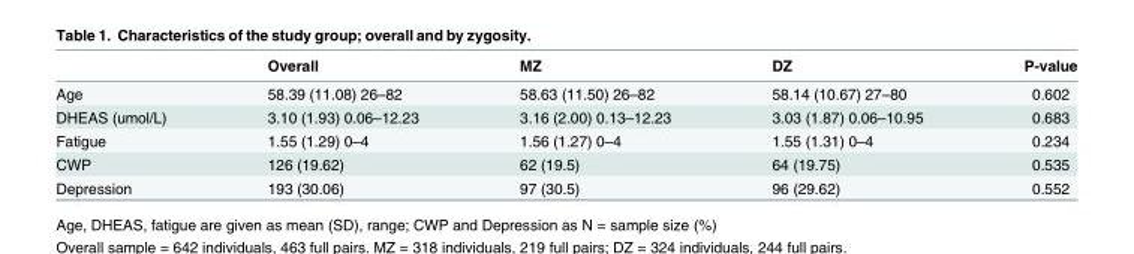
<table><thead><tr><td></td><td>Overall</td><td>MZ</td><td>DZ</td><td>P-value</td></tr></thead><tbody><tr><td>Age</td><td>58.39 (11.08) 26–82</td><td>58.63 (11.50) 26–82</td><td>58.14 (10.67) 27–80</td><td>0.602</td></tr><tr><td>DHEAS (umol/L)</td><td>3.10 (1.93) 0.06–12.23</td><td>3.16 (2.00) 0.13–12.23</td><td>3.03 (1.87) 0.06–10.95</td><td>0.683</td></tr><tr><td>Fatigue</td><td>1.55 (1.29) 0–4</td><td>1.56 (1.27) 0–4</td><td>1.55 (1.31) 0–4</td><td>0.234</td></tr><tr><td>CWP</td><td>126 (19.62)</td><td>62 (19.5)</td><td>64 (19.75)</td><td>0.535</td></tr><tr><td>Depression</td><td>193 (30.06)</td><td>97 (30.5)</td><td>96 (29.62)</td><td>0.552</td></tr></tbody></table>